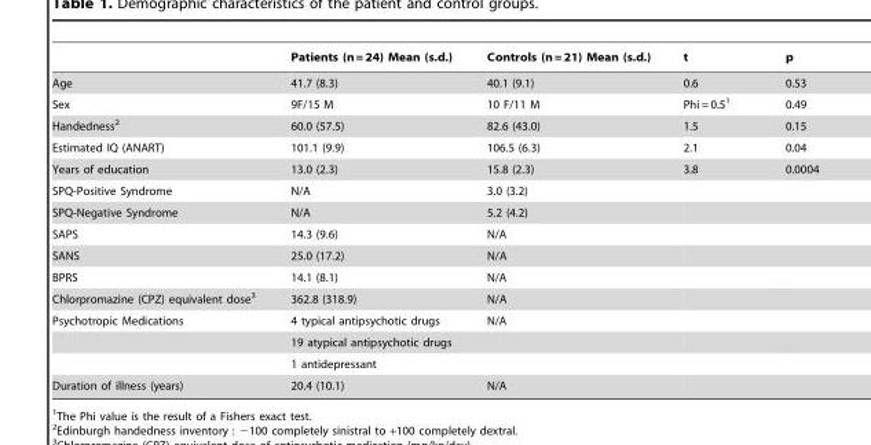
<table><thead><tr><td></td><td>Patients (n = 24) Mean (s.d.)</td><td>Controls (n = 21) Mean (s.d.)</td><td>t</td><td>p</td></tr></thead><tbody><tr><td>Age</td><td>41.7 (8.3)</td><td>40.1 (9.1)</td><td>0.6</td><td>0.53</td></tr><tr><td>Sex</td><td>9F/15 M</td><td>10 F/11 M</td><td>Phi = 0.5<sup>1</sup></td><td>0.49</td></tr><tr><td>Handedness<sup>2</sup></td><td>60.0 (57.5)</td><td>82.6 (43.0)</td><td>1.5</td><td>0.15</td></tr><tr><td>Estimated IQ (ANART)</td><td>101.1 (9.9)</td><td>106.5 (6.3)</td><td>2.1</td><td>0.04</td></tr><tr><td>Years of education</td><td>13.0 (2.3)</td><td>15.8 (2.3)</td><td>3.8</td><td>0.0004</td></tr><tr><td>SPQ-Positive Syndrome</td><td>N/A</td><td>3.0 (3.2)</td><td></td><td></td></tr><tr><td>SPQ-Negative Syndrome</td><td>N/A</td><td>5.2 (4.2)</td><td></td><td></td></tr><tr><td>SAPS</td><td>14.3 (9.6)</td><td>N/A</td><td></td><td></td></tr><tr><td>SANS</td><td>25.0 (17.2)</td><td>N/A</td><td></td><td></td></tr><tr><td>BPRS</td><td>14.1 (8.1)</td><td>N/A</td><td></td><td></td></tr><tr><td>Chlorpromazine (CPZ) equivalent dose<sup>3</sup></td><td>362.8 (318.9)</td><td>N/A</td><td></td><td></td></tr><tr><td rowspan="3">Psychotropic Medications</td><td>4 typical antipsychotic drugs</td><td>N/A</td><td></td><td></td></tr><tr><td>19 atypical antipsychotic drugs</td><td></td><td></td><td></td></tr><tr><td>1 antidepressant</td><td></td><td></td><td></td></tr><tr><td>Duration of illness (years)</td><td>20.4 (10.1)</td><td>N/A</td><td></td><td></td></tr></tbody></table>